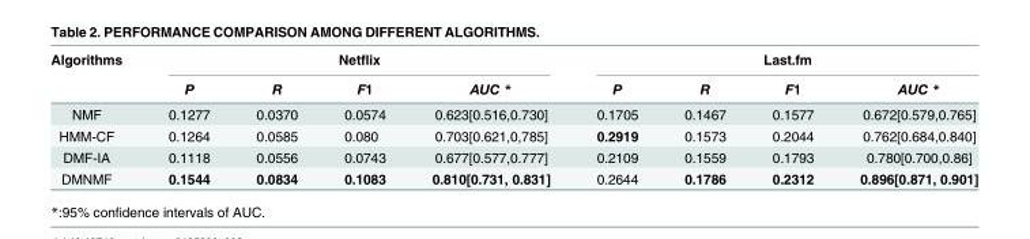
<table><thead><tr><td rowspan="2">Algorithms</td><td colspan="4">Netflix</td><td colspan="4">Last.fm</td></tr><tr><td>P</td><td>R</td><td>F1</td><td>AUC *</td><td>P</td><td>R</td><td>F1</td><td>AUC *</td></tr></thead><tbody><tr><td>NMF</td><td>0.1277</td><td>0.0370</td><td>0.0574</td><td>0.623[0.516,0.730]</td><td>0.1705</td><td>0.1467</td><td>0.1577</td><td>0.672[0.579,0.765]</td></tr><tr><td>HMM-CF</td><td>0.1264</td><td>0.0585</td><td>0.080</td><td>0.703[0.621,0,785]</td><td>0.2919</td><td>0.1573</td><td>0.2044</td><td>0.762[0.684,0.840]</td></tr><tr><td>DMF-IA</td><td>0.1118</td><td>0.0556</td><td>0.0743</td><td>0.677[0.577,0.777]</td><td>0.2109</td><td>0.1559</td><td>0.1793</td><td>0.780[0.700,0.86]</td></tr><tr><td>DMNMF</td><td>0.1544</td><td>0.0834</td><td>0.1083</td><td>0.810[0.731, 0.831]</td><td>0.2644</td><td>0.1786</td><td>0.2312</td><td>0.896[0.871, 0.901]</td></tr></tbody></table>